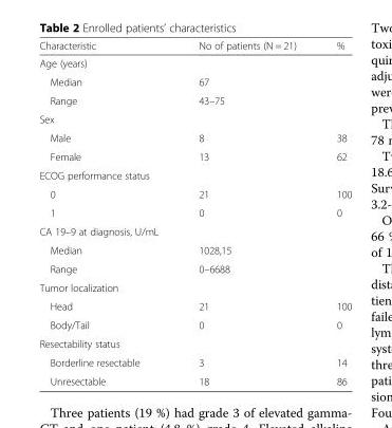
<table><thead><tr><td>Characteristic</td><td>No of patients (N = 21)</td><td>%</td></tr></thead><tbody><tr><td colspan="3">Age (years)</td></tr><tr><td>Median</td><td colspan="2">67</td></tr><tr><td>Range</td><td colspan="2">43–75</td></tr><tr><td colspan="3">Sex</td></tr><tr><td>Male</td><td>8</td><td>38</td></tr><tr><td>Female</td><td>13</td><td>62</td></tr><tr><td colspan="3">ECOG performance status</td></tr><tr><td>0</td><td>21</td><td>100</td></tr><tr><td>1</td><td>0</td><td>0</td></tr><tr><td colspan="3">CA 19–9 at diagnosis, U/mL</td></tr><tr><td>Median</td><td colspan="2">1028,15</td></tr><tr><td>Range</td><td colspan="2">0–6688</td></tr><tr><td colspan="3">Tumor localization</td></tr><tr><td>Head</td><td>21</td><td>100</td></tr><tr><td>Body/Tail</td><td>0</td><td>0</td></tr><tr><td colspan="3">Resectability status</td></tr><tr><td>Borderline resectable</td><td>3</td><td>14</td></tr><tr><td>Unresectable</td><td>18</td><td>86</td></tr></tbody></table>